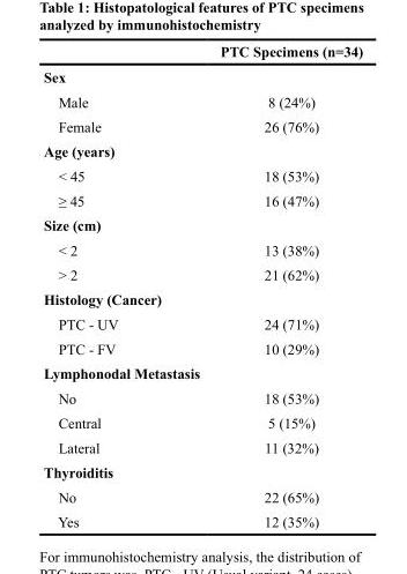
<table><thead><tr><td></td><td>PTC Specimens (n=34)</td></tr></thead><tbody><tr><td colspan="2">Sex</td></tr><tr><td>Male</td><td>8 (24%)</td></tr><tr><td>Female</td><td>26 (76%)</td></tr><tr><td colspan="2">Age (years)</td></tr><tr><td>&lt; 45</td><td>18 (53%)</td></tr><tr><td>≥ 45</td><td>16 (47%)</td></tr><tr><td colspan="2">Size (cm)</td></tr><tr><td>&lt; 2</td><td>13 (38%)</td></tr><tr><td>&gt; 2</td><td>21 (62%)</td></tr><tr><td colspan="2">Histology (Cancer)</td></tr><tr><td>PTC - UV</td><td>24 (71%)</td></tr><tr><td>PTC - FV</td><td>10 (29%)</td></tr><tr><td colspan="2">Lymphonodal Metastasis</td></tr><tr><td>No</td><td>18 (53%)</td></tr><tr><td>Central</td><td>5 (15%)</td></tr><tr><td>Lateral</td><td>11 (32%)</td></tr><tr><td colspan="2">Thyroiditis</td></tr><tr><td>No</td><td>22 (65%)</td></tr><tr><td>Yes</td><td>12 (35%)</td></tr></tbody></table>